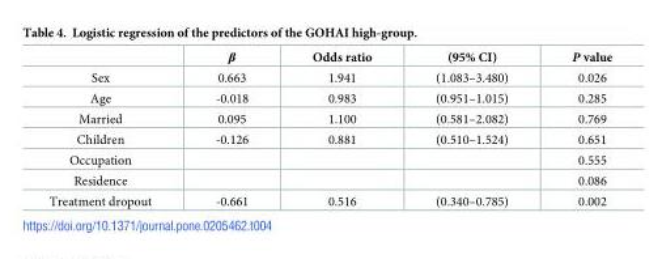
<table><thead><tr><td></td><td>β</td><td>Odds ratio</td><td>(95% CI)</td><td>P value</td></tr></thead><tbody><tr><td>Sex</td><td>0.663</td><td>1.941</td><td>(1.083–3.480)</td><td>0.026</td></tr><tr><td>Age</td><td>-0.018</td><td>0.983</td><td>(0.951–1.015)</td><td>0.285</td></tr><tr><td>Married</td><td>0.095</td><td>1.100</td><td>(0.581–2.082)</td><td>0.769</td></tr><tr><td>Children</td><td>-0.126</td><td>0.881</td><td>(0.510–1.524)</td><td>0.651</td></tr><tr><td>Occupation</td><td></td><td></td><td></td><td>0.555</td></tr><tr><td>Residence</td><td></td><td></td><td></td><td>0.086</td></tr><tr><td>Treatment dropout</td><td>-0.661</td><td>0.516</td><td>(0.340–0.785)</td><td>0.002</td></tr></tbody></table>